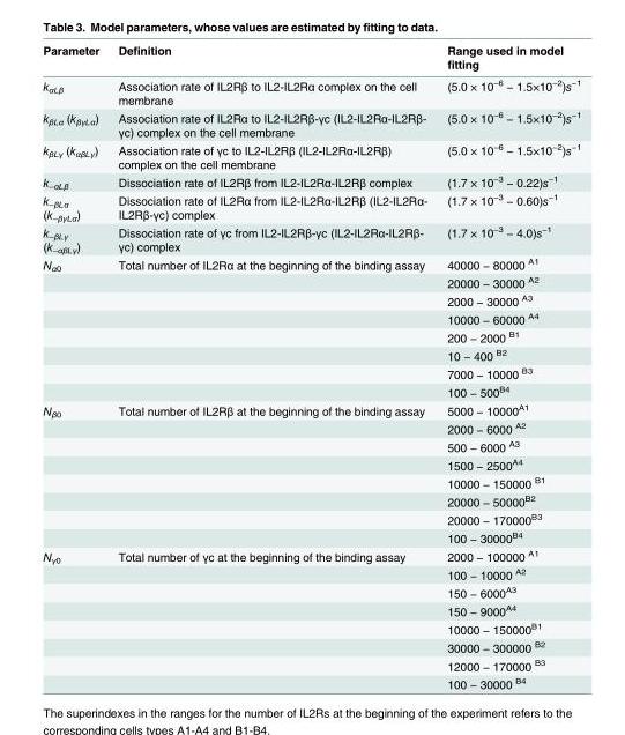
<table><thead><tr><td>Parameter</td><td>Definition</td><td>Range used in model fitting</td></tr></thead><tbody><tr><td>k<sub>αLβ</sub></td><td>Association rate of IL2Rβ to IL2-IL2Rα complex on the cell membrane</td><td>(5.0 × 10<sup>−6</sup> − 1.5×10<sup>−2</sup>)s<sup>−1</sup></td></tr><tr><td>k<sub>βLα</sub> (k<sub>βγLα</sub>)</td><td>Association rate of IL2Rα to IL2-IL2Rβ-γc (IL2-IL2Rα-IL2Rβ- γc) complex on the cell membrane</td><td>(5.0 × 10<sup>−6</sup> − 1.5×10<sup>−2</sup>)s<sup>−1</sup></td></tr><tr><td>k<sub>βLγ</sub> (k<sub>αβLγ</sub>)</td><td>Association rate of γc to IL2-IL2Rβ (IL2-IL2Rα-IL2Rβ) complex on the cell membrane</td><td>(5.0 × 10<sup>−6</sup> − 1.5×10<sup>−2</sup>)s<sup>−1</sup></td></tr><tr><td>k<sub>−αLβ</sub></td><td>Dissociation rate of IL2Rβ from IL2-IL2Rα-IL2Rβ complex</td><td>(1.7 × 10<sup>−3</sup> − 0.22)s<sup>−1</sup></td></tr><tr><td>k<sub>−βLα</sub> (k<sub>−βγLα</sub>)</td><td>Dissociation rate of IL2Rα from IL2-IL2Rα-IL2Rβ (IL2-IL2Rα- IL2Rβ-γc) complex</td><td>(1.7 × 10<sup>−3</sup> − 0.60)s<sup>−1</sup></td></tr><tr><td>k<sub>−βLγ</sub> (k<sub>−αβLγ</sub>)</td><td>Dissociation rate of γc from IL2-IL2Rβ-γc (IL2-IL2Rα-IL2Rβ- γc) complex</td><td>(1.7 × 10<sup>−3</sup> − 4.0)s<sup>−1</sup></td></tr><tr><td rowspan="8">N<sub>α0</sub></td><td>Total number of IL2Rα at the beginning of the binding assay</td><td>40000 − 80000 <sup>A1</sup></td></tr><tr><td></td><td>20000 − 30000 <sup>A2</sup></td></tr><tr><td></td><td>2000 − 30000 <sup>A3</sup></td></tr><tr><td></td><td>10000 − 60000 <sup>A4</sup></td></tr><tr><td></td><td>200 − 2000 <sup>B1</sup></td></tr><tr><td></td><td>10 − 400 <sup>B2</sup></td></tr><tr><td></td><td>7000 − 10000 <sup>B3</sup></td></tr><tr><td></td><td>100 − 500<sup>B4</sup></td></tr><tr><td rowspan="8">N<sub>β0</sub></td><td>Total number of IL2Rβ at the beginning of the binding assay</td><td>5000 − 10000<sup>A1</sup></td></tr><tr><td></td><td>2000 − 6000 <sup>A2</sup></td></tr><tr><td></td><td>500 − 6000 <sup>A3</sup></td></tr><tr><td></td><td>1500 − 2500<sup>A4</sup></td></tr><tr><td></td><td>10000 − 150000 <sup>B1</sup></td></tr><tr><td></td><td>20000 − 50000<sup>B2</sup></td></tr><tr><td></td><td>20000 − 170000<sup>B3</sup></td></tr><tr><td></td><td>100 − 30000<sup>B4</sup></td></tr><tr><td rowspan="8">N<sub>γ0</sub></td><td>Total number of γc at the beginning of the binding assay</td><td>2000 − 100000 <sup>A1</sup></td></tr><tr><td></td><td>100 − 10000 <sup>A2</sup></td></tr><tr><td></td><td>150 − 6000<sup>A3</sup></td></tr><tr><td></td><td>150 − 9000<sup>A4</sup></td></tr><tr><td></td><td>10000 − 150000<sup>B1</sup></td></tr><tr><td></td><td>30000 − 300000 <sup>B2</sup></td></tr><tr><td></td><td>12000 − 170000 <sup>B3</sup></td></tr><tr><td></td><td>100 − 30000 <sup>B4</sup></td></tr></tbody></table>